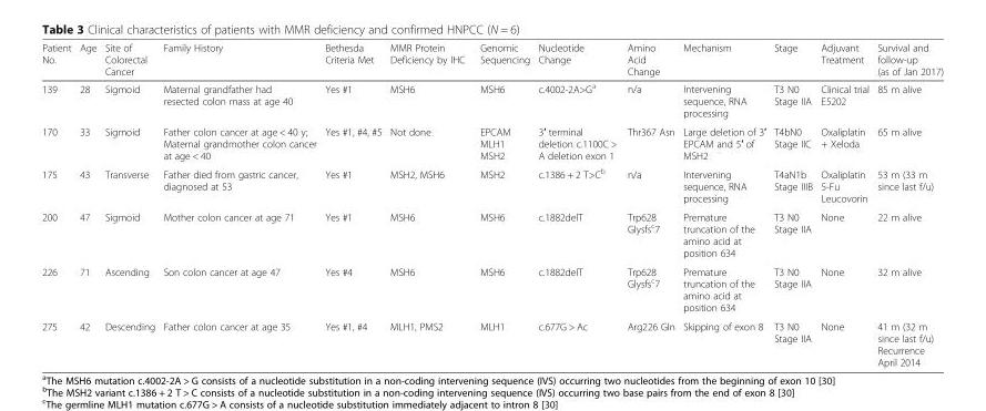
<table><thead><tr><td>Patient No.</td><td>Age</td><td>Site of Colorectal Cancer</td><td>Family History</td><td>Bethesda Criteria Met</td><td>MMR Protein Deficiency by IHC</td><td>Genomic Sequencing</td><td>Nucleotide Change</td><td>Amino Acid Change</td><td>Mechanism</td><td>Stage</td><td>Adjuvant Treatment</td><td>Survival and follow-up (as of Jan 2017)</td></tr></thead><tbody><tr><td>139</td><td>28</td><td>Sigmoid</td><td>Maternal grandfather had resected colon mass at age 40</td><td>Yes #1</td><td>MSH6</td><td>MSH6</td><td>c.4002-2A&gt;G<sup>a</sup></td><td>n/a</td><td>Intervening sequence, RNA processing</td><td>T3 N0 Stage IIA</td><td>Clinical trial E5202</td><td>85 m alive</td></tr><tr><td>170</td><td>33</td><td>Sigmoid</td><td>Father colon cancer at age &lt; 40 y; Maternal grandmother colon cancer at age &lt; 40</td><td>Yes #1, #4, #5</td><td>Not done</td><td>EPCAM MLH1 MSH2</td><td>3′ terminal deletion c.1100C &gt; A deletion exon 1</td><td>Thr367 Asn</td><td>Large deletion of 3′ EPCAM and 5′ of MSH2</td><td>T4bN0 Stage IIC</td><td>Oxaliplatin + Xeloda</td><td>65 m alive</td></tr><tr><td>175</td><td>43</td><td>Transverse</td><td>Father died from gastric cancer, diagnosed at 53</td><td>Yes #1</td><td>MSH2, MSH6</td><td>MSH2</td><td>c.1386 + 2 T&gt;C<sup>b</sup></td><td>n/a</td><td>Intervening sequence, RNA processing</td><td>T4aN1b Stage IIIB</td><td>Oxaliplatin 5-Fu Leucovorin</td><td>53 m (33 m since last f/u)</td></tr><tr><td>200</td><td>47</td><td>Sigmoid</td><td>Mother colon cancer at age 71</td><td>Yes #1</td><td>MSH6</td><td>MSH6</td><td>c.1882delT</td><td>Trp628 Glysfs<sup>c</sup>7</td><td>Premature truncation of the amino acid at position 634</td><td>T3 N0 Stage IIA</td><td>None</td><td>22 m alive</td></tr><tr><td>226</td><td>71</td><td>Ascending</td><td>Son colon cancer at age 47</td><td>Yes #4</td><td>MSH6</td><td>MSH6</td><td>c.1882delT</td><td>Trp628 Glysfs<sup>c</sup>7</td><td>Premature truncation of the amino acid at position 634</td><td>T3 N0 Stage IIA</td><td>None</td><td>32 m alive</td></tr><tr><td>275</td><td>42</td><td>Descending</td><td>Father colon cancer at age 35</td><td>Yes #1, #4</td><td>MLH1, PMS2</td><td>MLH1</td><td>c.677G &gt; Ac</td><td>Arg226 Gln</td><td>Skipping of exon 8</td><td>T3 N0 Stage IIA</td><td>None</td><td>41 m (32 m since last f/u) Recurrence April 2014</td></tr></tbody></table>